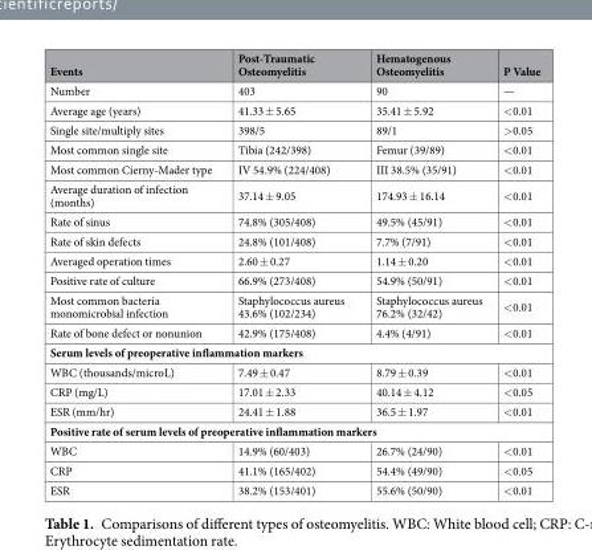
<table><thead><tr><td>Events</td><td>Post-Traumatic Osteomyelitis</td><td>Hematogenous Osteomyelitis</td><td>P Value</td></tr></thead><tbody><tr><td>Number</td><td>403</td><td>90</td><td>—</td></tr><tr><td>Average age (years)</td><td>41.33 ± 5.65</td><td>35.41 ± 5.92</td><td>&lt;0.01</td></tr><tr><td>Single site/multiply sites</td><td>398/5</td><td>89/1</td><td>&gt;0.05</td></tr><tr><td>Most common single site</td><td>Tibia (242/398)</td><td>Femur (39/89)</td><td>&lt;0.01</td></tr><tr><td>Most common Cierny-Mader type</td><td>IV 54.9% (224/408)</td><td>III 38.5% (35/91)</td><td>&lt;0.01</td></tr><tr><td>Average duration of infection (months)</td><td>37.14 ± 9.05</td><td>174.93 ± 16.14</td><td>&lt;0.01</td></tr><tr><td>Rate of sinus</td><td>74.8% (305/408)</td><td>49.5% (45/91)</td><td>&lt;0.01</td></tr><tr><td>Rate of skin defects</td><td>24.8% (101/408)</td><td>7.7% (7/91)</td><td>&lt;0.01</td></tr><tr><td>Averaged operation times</td><td>2.60 ± 0.27</td><td>1.14 ± 0.20</td><td>&lt;0.01</td></tr><tr><td>Positive rate of culture</td><td>66.9% (273/408)</td><td>54.9% (50/91)</td><td>&lt;0.01</td></tr><tr><td>Most common bacteria monomicrobial infection</td><td>Staphylococcus aureus 43.6% (102/234)</td><td>Staphylococcus aureus 76.2% (32/42)</td><td>&lt;0.01</td></tr><tr><td>Rate of bone defect or nonunion</td><td>42.9% (175/408)</td><td>4.4% (4/91)</td><td>&lt;0.01</td></tr><tr><td colspan="4">Serum levels of preoperative inflammation markers</td></tr><tr><td>WBC (thousands/microL)</td><td>7.49 ± 0.47</td><td>8.79 ± 0.39</td><td>&lt;0.01</td></tr><tr><td>CRP (mg/L)</td><td>17.01 ± 2.33</td><td>40.14 ± 4.12</td><td>&lt;0.05</td></tr><tr><td>ESR (mm/hr)</td><td>24.41 ± 1.88</td><td>36.5 ± 1.97</td><td>&lt;0.01</td></tr><tr><td colspan="4">Positive rate of serum levels of preoperative inflammation markers</td></tr><tr><td>WBC</td><td>14.9% (60/403)</td><td>26.7% (24/90)</td><td>&lt;0.01</td></tr><tr><td>CRP</td><td>41.1% (165/402)</td><td>54.4% (49/90)</td><td>&lt;0.05</td></tr><tr><td>ESR</td><td>38.2% (153/401)</td><td>55.6% (50/90)</td><td>&lt;0.01</td></tr></tbody></table>